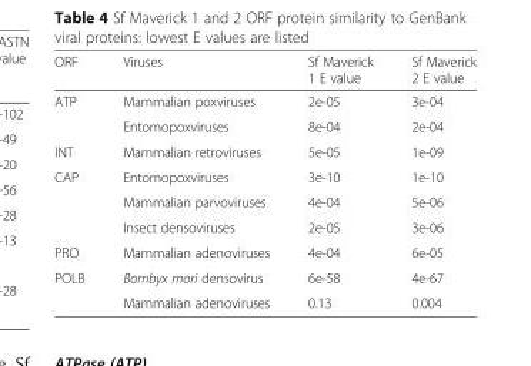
<table><thead><tr><td>ORF</td><td>Viruses</td><td>Sf Maverick 1 E value</td><td>Sf Maverick 2 E value</td></tr></thead><tbody><tr><td rowspan="2">ATP</td><td>Mammalian poxviruses</td><td>2e-05</td><td>3e-04</td></tr><tr><td>Entomopoxviruses</td><td>8e-04</td><td>2e-04</td></tr><tr><td>INT</td><td>Mammalian retroviruses</td><td>5e-05</td><td>1e-09</td></tr><tr><td rowspan="3">CAP</td><td>Entomopoxviruses</td><td>3e-10</td><td>1e-10</td></tr><tr><td>Mammalian parvoviruses</td><td>4e-04</td><td>5e-06</td></tr><tr><td>Insect densoviruses</td><td>2e-05</td><td>3e-06</td></tr><tr><td>PRO</td><td>Mammalian adenoviruses</td><td>4e-04</td><td>6e-05</td></tr><tr><td rowspan="2">POLB</td><td>Bombyx mori densovirus</td><td>6e-58</td><td>4e-67</td></tr><tr><td>Mammalian adenoviruses</td><td>0.13</td><td>0.004</td></tr></tbody></table>